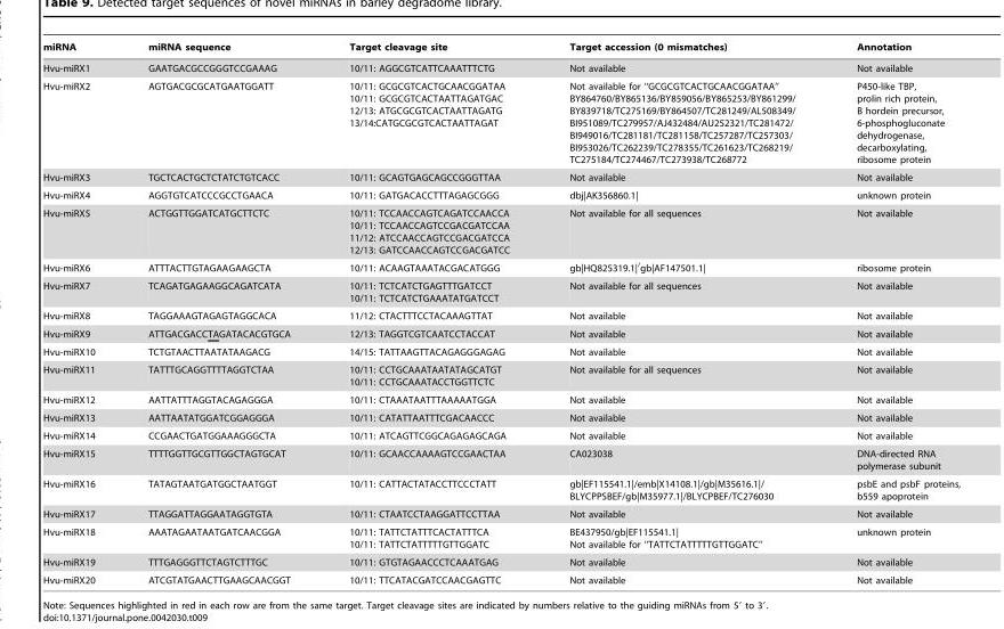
<table><thead><tr><td>miRNA</td><td>miRNA sequence</td><td>Target cleavage site</td><td>Target accession (0 mismatches)</td><td>Annotation</td></tr></thead><tbody><tr><td>Hvu-miRX1</td><td>GAATGACGCCGGGTCCGAAAG</td><td>10/11: AGGCGTCATTCAAATTTCTG</td><td>Not available</td><td>Not available</td></tr><tr><td>Hvu-miRX2</td><td>AGTGACGCGCATGAATGGATT</td><td>10/11: GCGCGTCACTGCAACGGATAA 10/11: GCGCGTCACTAATTAGATGAC 12/13: ATGCGCGTCACTAATTAGATG 13/14:CATGCGCGTCACTAATTAGAT</td><td>Not available for ‘‘GCGCGTCACTGCAACGGATAA’’ BY864760/BY865136/BY859056/BY865253/BY861299/ BY839718/TC275169/BY864507/TC281249/AL508349/ BI951089/TC279957/AJ432484/AU252321/TC281472/ BI949016/TC281181/TC281158/TC257287/TC257303/ BI953026/TC262239/TC278355/TC261623/TC268219/ TC275184/TC274467/TC273938/TC268772</td><td>P450-like TBP, prolin rich protein, B hordein precursor, 6-phosphogluconate dehydrogenase, decarboxylating, ribosome protein</td></tr><tr><td>Hvu-miRX3</td><td>TGCTCACTGCTCTATCTGTCACC</td><td>10/11: GCAGTGAGCAGCCGGGTTAA</td><td>Not available</td><td>Not available</td></tr><tr><td>Hvu-miRX4</td><td>AGGTGTCATCCCGCCTGAACA</td><td>10/11: GATGACACCTTTAGAGCGGG</td><td>dbj|AK356860.1|</td><td>unknown protein</td></tr><tr><td>Hvu-miRX5</td><td>ACTGGTTGGATCATGCTTCTC</td><td>10/11: TCCAACCAGTCAGATCCAACCA 10/11: TCCAACCAGTCCGACGATCCAA 11/12: ATCCAACCAGTCCGACGATCCA 12/13: GATCCAACCAGTCCGACGATCC</td><td>Not available for all sequences</td><td>Not available</td></tr><tr><td>Hvu-miRX6</td><td>ATTTACTTGTAGAAGAAGCTA</td><td>10/11: ACAAGTAAATACGACATGGG</td><td>gb|HQ825319.1|<sup>/</sup>gb|AF147501.1|</td><td>ribosome protein</td></tr><tr><td>Hvu-miRX7</td><td>TCAGATGAGAAGGCAGATCATA</td><td>10/11: TCTCATCTGAGTTTGATCCT 10/11: TCTCATCTGAAATATGATCCT</td><td>Not available for all sequences</td><td>Not available</td></tr><tr><td>Hvu-miRX8</td><td>TAGGAAAGTAGAGTAGGCACA</td><td>11/12: CTACTTTCCTACAAAGTTAT</td><td>Not available</td><td>Not available</td></tr><tr><td>Hvu-miRX9</td><td>ATTGACGACCTAGATACACGTGCA</td><td>12/13: TAGGTCGTCAATCCTACCAT</td><td>Not available</td><td>Not available</td></tr><tr><td>Hvu-miRX10</td><td>TCTGTAACTTAATATAAGACG</td><td>14/15: TATTAAGTTACAGAGGGAGAG</td><td>Not available</td><td>Not available</td></tr><tr><td>Hvu-miRX11</td><td>TATTTGCAGGTTTTAGGTCTAA</td><td>10/11: CCTGCAAATAATATAGCATGT 10/11: CCTGCAAATACCTGGTTCTC</td><td>Not available for all sequences</td><td>Not available</td></tr><tr><td>Hvu-miRX12</td><td>AATTATTTAGGTACAGAGGGA</td><td>10/11: CTAAATAATTTAAAAATGGA</td><td>Not available</td><td>Not available</td></tr><tr><td>Hvu-miRX13</td><td>AATTAATATGGATCGGAGGGA</td><td>10/11: CATATTAATTTCGACAACCC</td><td>Not available</td><td>Not available</td></tr><tr><td>Hvu-miRX14</td><td>CCGAACTGATGGAAAGGGCTA</td><td>10/11: ATCAGTTCGGCAGAGAGCAGA</td><td>Not available</td><td>Not available</td></tr><tr><td>Hvu-miRX15</td><td>TTTTGGTTGCGTTGGCTAGTGCAT</td><td>10/11: GCAACCAAAAGTCCGAACTAA</td><td>CA023038</td><td>DNA-directed RNA polymerase subunit</td></tr><tr><td>Hvu-miRX16</td><td>TATAGTAATGATGGCTAATGGT</td><td>10/11: CATTACTATACCTTCCCTATT</td><td>gb|EF115541.1|/emb|X14108.1|/gb|M35616.1|/ BLYCPPSBEF/gb|M35977.1|/BLYCPBEF/TC276030</td><td>psbE and psbF proteins, b559 apoprotein</td></tr><tr><td>Hvu-miRX17</td><td>TTAGGATTAGGAATAGGTGTA</td><td>10/11: CTAATCCTAAGGATTCCTTAA</td><td>Not available</td><td>Not available</td></tr><tr><td>Hvu-miRX18</td><td>AAATAGAATAATGATCAACGGA</td><td>10/11: TATTCTATTTCACTATTTCA 10/11: TATTCTATTTTTGTTGGATC</td><td>BE437950/gb|EF115541.1| Not available for ‘‘TATTCTATTTTTGTTGGATC’’</td><td>unknown protein</td></tr><tr><td>Hvu-miRX19</td><td>TTTGAGGGTTCTAGTCTTTGC</td><td>10/11: GTGTAGAACCCTCAAATGAG</td><td>Not available</td><td>Not available</td></tr><tr><td>Hvu-miRX20</td><td>ATCGTATGAACTTGAAGCAACGGT</td><td>10/11: TTCATACGATCCAACGAGTTC</td><td>Not available</td><td>Not available</td></tr></tbody></table>